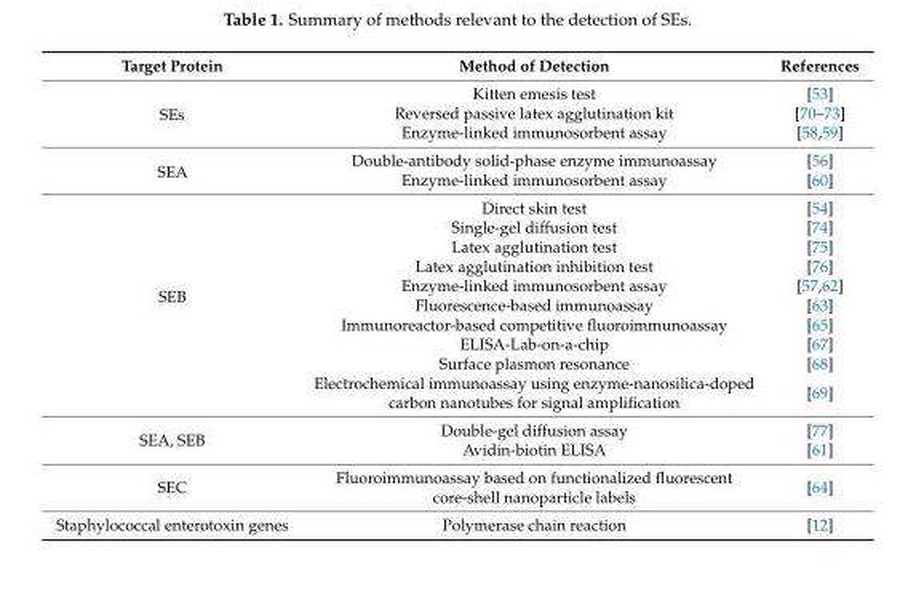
<table><thead><tr><td>Target Protein</td><td>Method of Detection</td><td>References</td></tr></thead><tbody><tr><td rowspan="3">SEs</td><td>Kitten emesis test</td><td>[53]</td></tr><tr><td>Reversed passive latex agglutination kit</td><td>[70–73]</td></tr><tr><td>Enzyme-linked immunosorbent assay</td><td>[58,59]</td></tr><tr><td rowspan="2">SEA</td><td>Double-antibody solid-phase enzyme immunoassay</td><td>[56]</td></tr><tr><td>Enzyme-linked immunosorbent assay</td><td>[60]</td></tr><tr><td rowspan="10">SEB</td><td>Direct skin test</td><td>[54]</td></tr><tr><td>Single-gel diffusion test</td><td>[74]</td></tr><tr><td>Latex agglutination test</td><td>[75]</td></tr><tr><td>Latex agglutination inhibition test</td><td>[76]</td></tr><tr><td>Enzyme-linked immunosorbent assay</td><td>[57,62]</td></tr><tr><td>Fluorescence-based immunoassay</td><td>[63]</td></tr><tr><td>Immunoreactor-based competitive fluoroimmunoassay</td><td>[65]</td></tr><tr><td>ELISA-Lab-on-a-chip</td><td>[67]</td></tr><tr><td>Surface plasmon resonance</td><td>[68]</td></tr><tr><td>Electrochemical immunoassay using enzyme-nanosilica-doped carbon nanotubes for signal amplification</td><td>[69]</td></tr><tr><td rowspan="2">SEA, SEB</td><td>Double-gel diffusion assay</td><td>[77]</td></tr><tr><td>Avidin-biotin ELISA</td><td>[61]</td></tr><tr><td>SEC</td><td>Fluoroimmunoassay based on functionalized fluorescent core-shell nanoparticle labels</td><td>[64]</td></tr><tr><td>Staphylococcal enterotoxin genes</td><td>Polymerase chain reaction</td><td>[12]</td></tr></tbody></table>